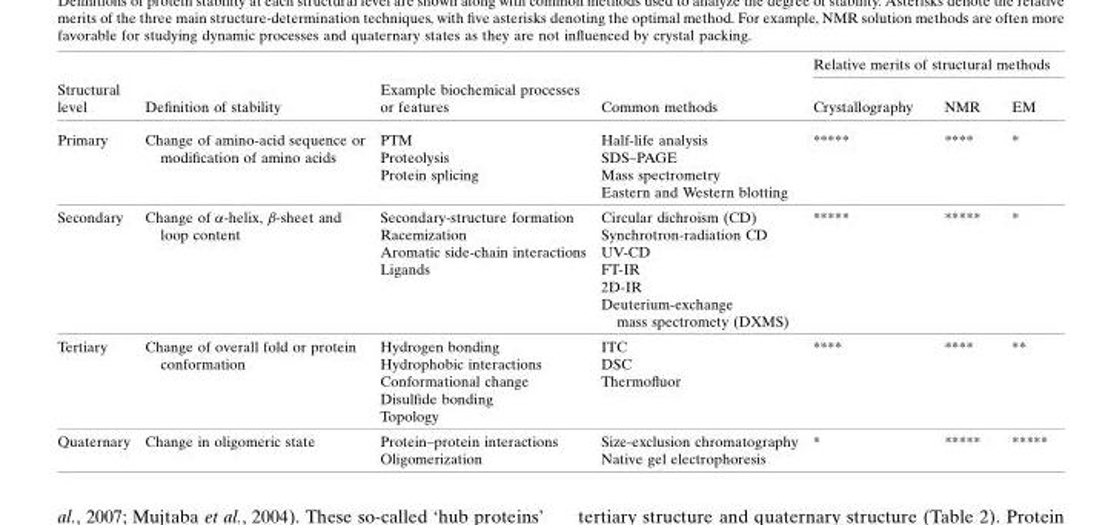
<table><thead><tr><td rowspan="2">Structural level</td><td rowspan="2">Definition of stability</td><td rowspan="2">Example biochemical processes or features</td><td rowspan="2">Common methods</td><td colspan="3">Relative merits of structural methods</td></tr><tr><td>Crystallography</td><td>NMR</td><td>EM</td></tr></thead><tbody><tr><td>Primary</td><td>Change of amino-acid sequence or modification of amino acids</td><td>PTM Proteolysis Protein splicing</td><td>Half-life analysis SDS–PAGE Mass spectrometry Eastern and Western blotting</td><td>*****</td><td>****</td><td>*</td></tr><tr><td>Secondary</td><td>Change of α-helix, β-sheet and loop content</td><td>Secondary-structure formation Racemization Aromatic side-chain interactions Ligands</td><td>Circular dichroism (CD) Synchrotron-radiation CD UV-CD FT-IR 2D-IR Deuterium-exchange mass spectromety (DXMS)</td><td>*****</td><td>*****</td><td>*</td></tr><tr><td>Tertiary</td><td>Change of overall fold or protein conformation</td><td>Hydrogen bonding Hydrophobic interactions Conformational change Disulfide bonding Topology</td><td>ITC DSC Thermofluor</td><td>****</td><td>****</td><td>**</td></tr><tr><td>Quaternary</td><td>Change in oligomeric state</td><td>Protein–protein interactions Oligomerization</td><td>Size-exclusion chromatography Native gel electrophoresis</td><td>*</td><td>*****</td><td>*****</td></tr></tbody></table>